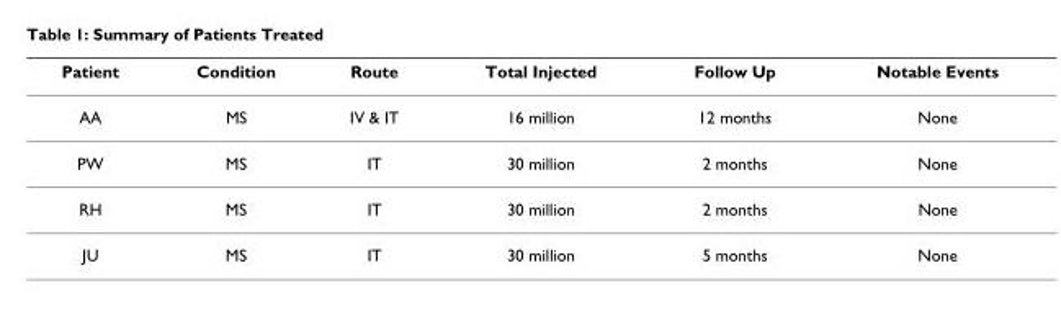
<table><thead><tr><td>Patient</td><td>Condition</td><td>Route</td><td>Total Injected</td><td>Follow Up</td><td>Notable Events</td></tr></thead><tbody><tr><td>AA</td><td>MS</td><td>IV &amp; IT</td><td>16 million</td><td>12 months</td><td>None</td></tr><tr><td>PW</td><td>MS</td><td>IT</td><td>30 million</td><td>2 months</td><td>None</td></tr><tr><td>RH</td><td>MS</td><td>IT</td><td>30 million</td><td>2 months</td><td>None</td></tr><tr><td>JU</td><td>MS</td><td>IT</td><td>30 million</td><td>5 months</td><td>None</td></tr></tbody></table>